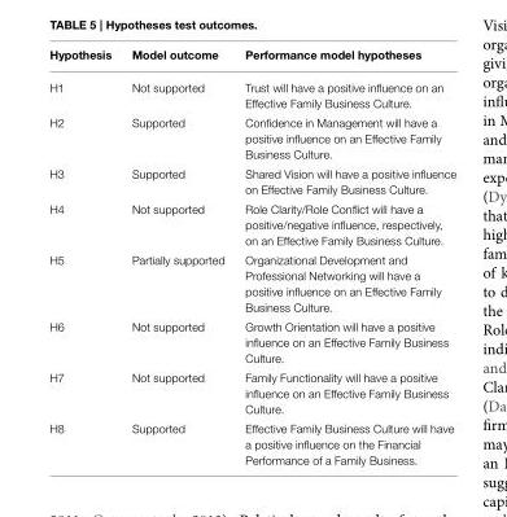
<table><thead><tr><td>Hypothesis</td><td>Model outcome</td><td>Performance model hypotheses</td></tr></thead><tbody><tr><td>H1</td><td>Not supported</td><td>Trust will have a positive influence on an Effective Family Business Culture.</td></tr><tr><td>H2</td><td>Supported</td><td>Confidence in Management will have a positive influence on an Effective Family Business Culture.</td></tr><tr><td>H3</td><td>Supported</td><td>Shared Vision will have a positive influence on Effective Family Business Culture.</td></tr><tr><td>H4</td><td>Not supported</td><td>Role Clarity/Role Conflict will have a positive/negative influence, respectively, on an Effective Family Business Culture.</td></tr><tr><td>H5</td><td>Partially supported</td><td>Organizational Development and Professional Networking will have a positive influence on an Effective Family Business Culture.</td></tr><tr><td>H6</td><td>Not supported</td><td>Growth Orientation will have a positive influence on an Effective Family Business Culture.</td></tr><tr><td>H7</td><td>Not supported</td><td>Family Functionality will have a positive influence on an Effective Family Business Culture.</td></tr><tr><td>H8</td><td>Supported</td><td>Effective Family Business Culture will have a positive influence on the Financial Performance of a Family Business.</td></tr></tbody></table>